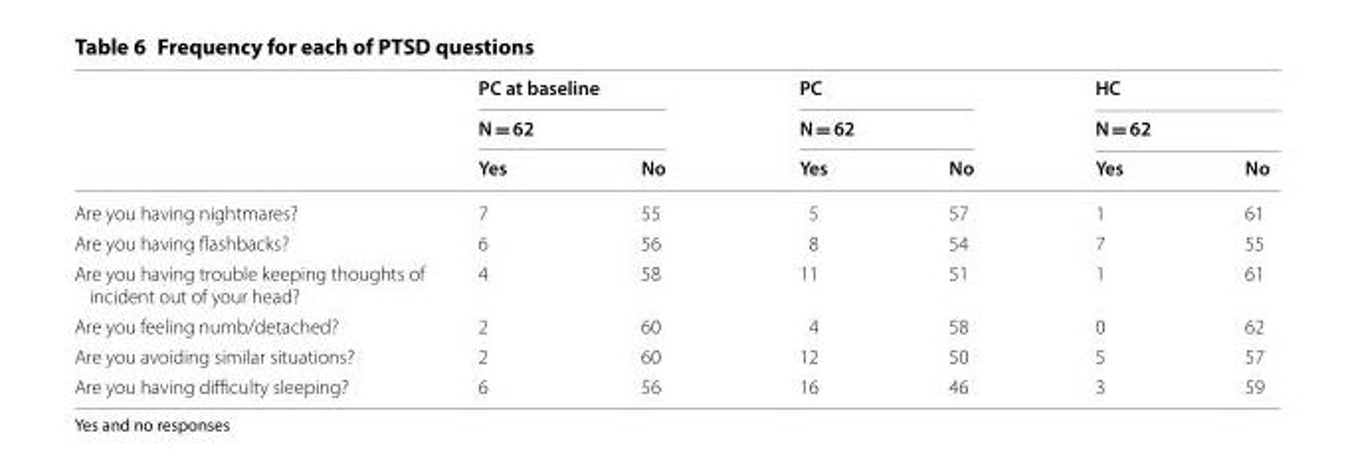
<table><thead><tr><td rowspan="3"></td><td rowspan="2" colspan="2">PC at baseline N = 62</td><td rowspan="2" colspan="2">PC N = 62</td><td rowspan="2" colspan="2">HC N = 62</td></tr><tr></tr><tr><td>Yes</td><td>No</td><td>Yes</td><td>No</td><td>Yes</td><td>No</td></tr></thead><tbody><tr><td>Are you having nightmares?</td><td>7</td><td>55</td><td>5</td><td>57</td><td>1</td><td>61</td></tr><tr><td>Are you having flashbacks?</td><td>6</td><td>56</td><td>8</td><td>54</td><td>7</td><td>55</td></tr><tr><td>Are you having trouble keeping thoughts of incident out of your head?</td><td>4</td><td>58</td><td>11</td><td>51</td><td>1</td><td>61</td></tr><tr><td>Are you feeling numb/detached?</td><td>2</td><td>60</td><td>4</td><td>58</td><td>0</td><td>62</td></tr><tr><td>Are you avoiding similar situations?</td><td>2</td><td>60</td><td>12</td><td>50</td><td>5</td><td>57</td></tr><tr><td>Are you having difficulty sleeping?</td><td>6</td><td>56</td><td>16</td><td>46</td><td>3</td><td>59</td></tr></tbody></table>